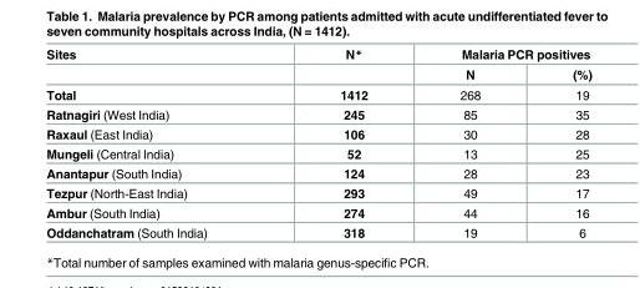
<table><thead><tr><td rowspan="2">Sites</td><td rowspan="2">N*</td><td colspan="2">Malaria PCR positives</td></tr><tr><td>N</td><td>(%)</td></tr></thead><tbody><tr><td>Total</td><td>1412</td><td>268</td><td>19</td></tr><tr><td>Ratnagiri (West India)</td><td>245</td><td>85</td><td>35</td></tr><tr><td>Raxaul (East India)</td><td>106</td><td>30</td><td>28</td></tr><tr><td>Mungeli (Central India)</td><td>52</td><td>13</td><td>25</td></tr><tr><td>Anantapur (South India)</td><td>124</td><td>28</td><td>23</td></tr><tr><td>Tezpur (North-East India)</td><td>293</td><td>49</td><td>17</td></tr><tr><td>Ambur (South India)</td><td>274</td><td>44</td><td>16</td></tr><tr><td>Oddanchatram (South India)</td><td>318</td><td>19</td><td>6</td></tr></tbody></table>